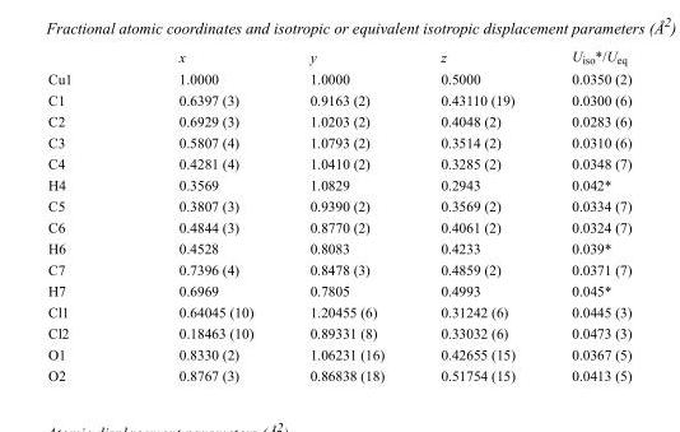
<table><thead><tr><td></td><td>x</td><td>y</td><td>z</td><td>U<sub>iso</sub>*/U<sub>eq</sub></td></tr></thead><tbody><tr><td>Cu1</td><td>1.0000</td><td>1.0000</td><td>0.5000</td><td>0.0350 (2)</td></tr><tr><td>C1</td><td>0.6397 (3)</td><td>0.9163 (2)</td><td>0.43110 (19)</td><td>0.0300 (6)</td></tr><tr><td>C2</td><td>0.6929 (3)</td><td>1.0203 (2)</td><td>0.4048 (2)</td><td>0.0283 (6)</td></tr><tr><td>C3</td><td>0.5807 (4)</td><td>1.0793 (2)</td><td>0.3514 (2)</td><td>0.0310 (6)</td></tr><tr><td>C4</td><td>0.4281 (4)</td><td>1.0410 (2)</td><td>0.3285 (2)</td><td>0.0348 (7)</td></tr><tr><td>H4</td><td>0.3569</td><td>1.0829</td><td>0.2943</td><td>0.042*</td></tr><tr><td>C5</td><td>0.3807 (3)</td><td>0.9390 (2)</td><td>0.3569 (2)</td><td>0.0334 (7)</td></tr><tr><td>C6</td><td>0.4844 (3)</td><td>0.8770 (2)</td><td>0.4061 (2)</td><td>0.0324 (7)</td></tr><tr><td>H6</td><td>0.4528</td><td>0.8083</td><td>0.4233</td><td>0.039*</td></tr><tr><td>C7</td><td>0.7396 (4)</td><td>0.8478 (3)</td><td>0.4859 (2)</td><td>0.0371 (7)</td></tr><tr><td>H7</td><td>0.6969</td><td>0.7805</td><td>0.4993</td><td>0.045*</td></tr><tr><td>Cl1</td><td>0.64045 (10)</td><td>1.20455 (6)</td><td>0.31242 (6)</td><td>0.0445 (3)</td></tr><tr><td>Cl2</td><td>0.18463 (10)</td><td>0.89331 (8)</td><td>0.33032 (6)</td><td>0.0473 (3)</td></tr><tr><td>O1</td><td>0.8330 (2)</td><td>1.06231 (16)</td><td>0.42655 (15)</td><td>0.0367 (5)</td></tr><tr><td>O2</td><td>0.8767 (3)</td><td>0.86838 (18)</td><td>0.51754 (15)</td><td>0.0413 (5)</td></tr></tbody></table>